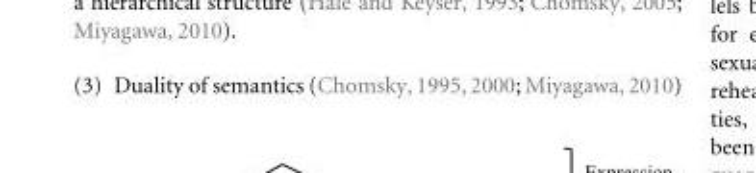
<table><tbody><tr><td>(3)</td><td>Duality of semantics (Chomsky, 1995, 2000; Miyagawa, 2010)</td></tr></tbody></table>